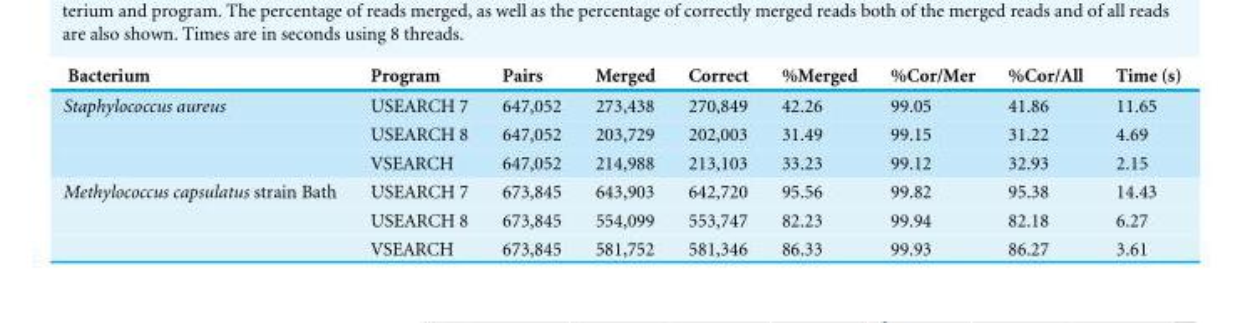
<table><thead><tr><td>Bacterium</td><td>Program</td><td>Pairs</td><td>Merged</td><td>Correct</td><td>%Merged</td><td>%Cor/Mer</td><td>%Cor/All</td><td>Time (s)</td></tr></thead><tbody><tr><td rowspan="3">Staphylococcus aureus</td><td>USEARCH 7</td><td>647,052</td><td>273,438</td><td>270,849</td><td>42.26</td><td>99.05</td><td>41.86</td><td>11.65</td></tr><tr><td>USEARCH 8</td><td>647,052</td><td>203,729</td><td>202,003</td><td>31.49</td><td>99.15</td><td>31.22</td><td>4.69</td></tr><tr><td>VSEARCH</td><td>647,052</td><td>214,988</td><td>213,103</td><td>33.23</td><td>99.12</td><td>32.93</td><td>2.15</td></tr><tr><td rowspan="3">Methylococcus capsulatus strain Bath</td><td>USEARCH 7</td><td>673,845</td><td>643,903</td><td>642,720</td><td>95.56</td><td>99.82</td><td>95.38</td><td>14.43</td></tr><tr><td>USEARCH 8</td><td>673,845</td><td>554,099</td><td>553,747</td><td>82.23</td><td>99.94</td><td>82.18</td><td>6.27</td></tr><tr><td>VSEARCH</td><td>673,845</td><td>581,752</td><td>581,346</td><td>86.33</td><td>99.93</td><td>86.27</td><td>3.61</td></tr></tbody></table>